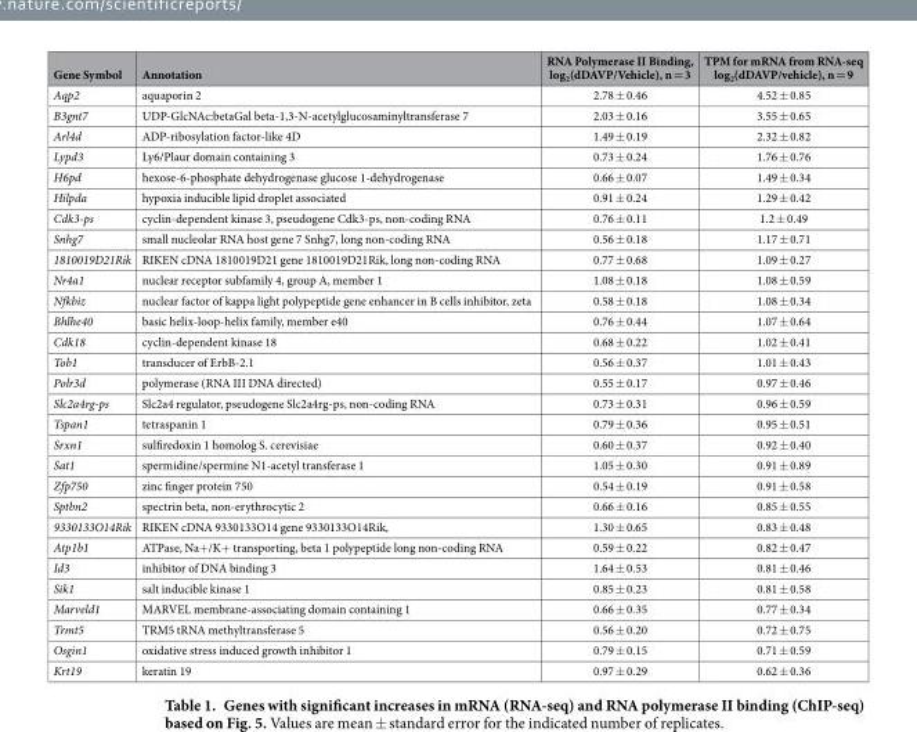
<table><thead><tr><td>Gene Symbol</td><td>Annotation</td><td>RNA Polymerase II Binding, log<sub>2</sub>(dDAVP/Vehicle), n = 3</td><td>TPM for mRNA from RNA-seq log<sub>2</sub>(dDAVP/vehicle), n = 9</td></tr></thead><tbody><tr><td>Aqp2</td><td>aquaporin 2</td><td>2.78 ± 0.46</td><td>4.52 ± 0.85</td></tr><tr><td>B3gnt7</td><td>UDP-GlcNAc:betaGal beta-1,3-N-acetylglucosaminyltransferase 7</td><td>2.03 ± 0.16</td><td>3.55 ± 0.65</td></tr><tr><td>Arl4d</td><td>ADP-ribosylation factor-like 4D</td><td>1.49 ± 0.19</td><td>2.32 ± 0.82</td></tr><tr><td>Lypd3</td><td>Ly6/Plaur domain containing 3</td><td>0.73 ± 0.24</td><td>1.76 ± 0.76</td></tr><tr><td>H6pd</td><td>hexose-6-phosphate dehydrogenase glucose 1-dehydrogenase</td><td>0.66 ± 0.07</td><td>1.49 ± 0.34</td></tr><tr><td>Hilpda</td><td>hypoxia inducible lipid droplet associated</td><td>0.91 ± 0.24</td><td>1.29 ± 0.42</td></tr><tr><td>Cdk3-ps</td><td>cyclin-dependent kinase 3, pseudogene Cdk3-ps, non-coding RNA</td><td>0.76 ± 0.11</td><td>1.2 ± 0.49</td></tr><tr><td>Snhg7</td><td>small nucleolar RNA host gene 7 Snhg7, long non-coding RNA</td><td>0.56 ± 0.18</td><td>1.17 ± 0.71</td></tr><tr><td>1810019D21Rik</td><td>RIKEN cDNA 1810019D21 gene 1810019D21Rik, long non-coding RNA</td><td>0.77 ± 0.68</td><td>1.09 ± 0.27</td></tr><tr><td>Nr4a1</td><td>nuclear receptor subfamily 4, group A, member 1</td><td>1.08 ± 0.18</td><td>1.08 ± 0.59</td></tr><tr><td>Nfkbiz</td><td>nuclear factor of kappa light polypeptide gene enhancer in B cells inhibitor, zeta</td><td>0.58 ± 0.18</td><td>1.08 ± 0.34</td></tr><tr><td>Bhlhe40</td><td>basic helix-loop-helix family, member e40</td><td>0.76 ± 0.44</td><td>1.07 ± 0.64</td></tr><tr><td>Cdk18</td><td>cyclin-dependent kinase 18</td><td>0.68 ± 0.22</td><td>1.02 ± 0.41</td></tr><tr><td>Tob1</td><td>transducer of ErbB-2.1</td><td>0.56 ± 0.37</td><td>1.01 ± 0.43</td></tr><tr><td>Polr3d</td><td>polymerase (RNA III DNA directed)</td><td>0.55 ± 0.17</td><td>0.97 ± 0.46</td></tr><tr><td>Slc2a4rg-ps</td><td>Slc2a4 regulator, pseudogene Slc2a4rg-ps, non-coding RNA</td><td>0.73 ± 0.31</td><td>0.96 ± 0.59</td></tr><tr><td>Tspan1</td><td>tetraspanin 1</td><td>0.79 ± 0.36</td><td>0.95 ± 0.51</td></tr><tr><td>Srxn1</td><td>sulfiredoxin 1 homolog S. cerevisiae</td><td>0.60 ± 0.37</td><td>0.92 ± 0.40</td></tr><tr><td>Sat1</td><td>spermidine/spermine N1-acetyl transferase 1</td><td>1.05 ± 0.30</td><td>0.91 ± 0.89</td></tr><tr><td>Zfp750</td><td>zinc finger protein 750</td><td>0.54 ± 0.19</td><td>0.91 ± 0.58</td></tr><tr><td>Sptbn2</td><td>spectrin beta, non-erythrocytic 2</td><td>0.66 ± 0.16</td><td>0.85 ± 0.55</td></tr><tr><td>9330133O14Rik</td><td>RIKEN cDNA 9330133O14 gene 9330133O14Rik,</td><td>1.30 ± 0.65</td><td>0.83 ± 0.48</td></tr><tr><td>Atp1b1</td><td>ATPase, Na+ /K+ transporting, beta 1 polypeptide long non-coding RNA</td><td>0.59 ± 0.22</td><td>0.82 ± 0.47</td></tr><tr><td>Id3</td><td>inhibitor of DNA binding 3</td><td>1.64 ± 0.53</td><td>0.81 ± 0.46</td></tr><tr><td>Sik1</td><td>salt inducible kinase 1</td><td>0.85 ± 0.23</td><td>0.81 ± 0.58</td></tr><tr><td>Marveld1</td><td>MARVEL membrane-associating domain containing 1</td><td>0.66 ± 0.35</td><td>0.77 ± 0.34</td></tr><tr><td>Trmt5</td><td>TRM5 tRNA methyltransferase 5</td><td>0.56 ± 0.20</td><td>0.72 ± 0.75</td></tr><tr><td>Osgin1</td><td>oxidative stress induced growth inhibitor 1</td><td>0.79 ± 0.15</td><td>0.71 ± 0.59</td></tr><tr><td>Krt19</td><td>keratin 19</td><td>0.97 ± 0.29</td><td>0.62 ± 0.36</td></tr></tbody></table>